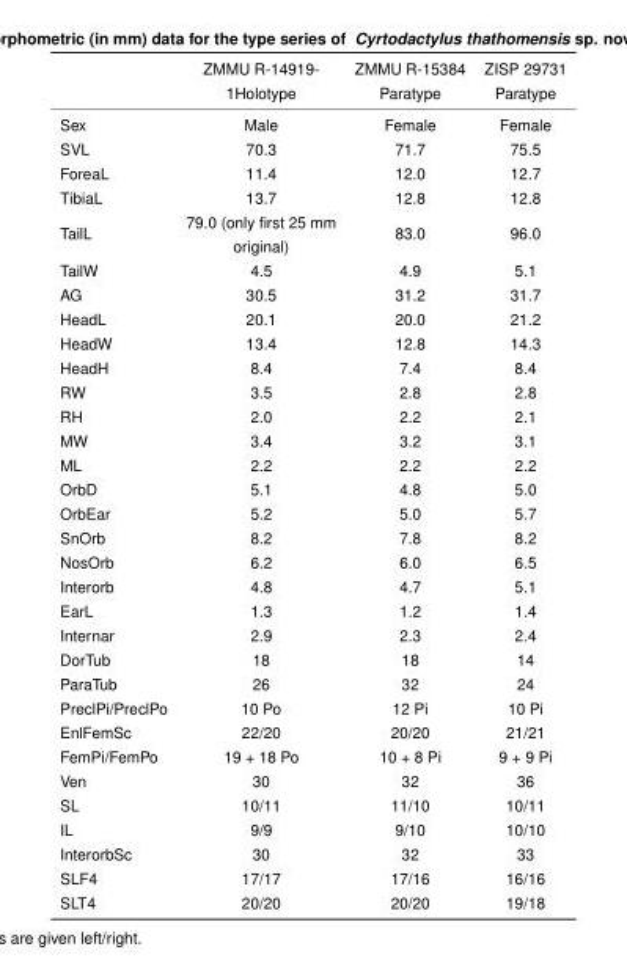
<table><thead><tr><td></td><td>ZMMU R-14919- 1Holotype</td><td>ZMMU R-15384 Paratype</td><td>ZISP 29731 Paratype</td></tr></thead><tbody><tr><td>Sex</td><td>Male</td><td>Female</td><td>Female</td></tr><tr><td>SVL</td><td>70.3</td><td>71.7</td><td>75.5</td></tr><tr><td>ForeaL</td><td>11.4</td><td>12.0</td><td>12.7</td></tr><tr><td>TibiaL</td><td>13.7</td><td>12.8</td><td>12.8</td></tr><tr><td>TailL</td><td>79.0 (only first 25 mm original)</td><td>83.0</td><td>96.0</td></tr><tr><td>TailW</td><td>4.5</td><td>4.9</td><td>5.1</td></tr><tr><td>AG</td><td>30.5</td><td>31.2</td><td>31.7</td></tr><tr><td>HeadL</td><td>20.1</td><td>20.0</td><td>21.2</td></tr><tr><td>HeadW</td><td>13.4</td><td>12.8</td><td>14.3</td></tr><tr><td>HeadH</td><td>8.4</td><td>7.4</td><td>8.4</td></tr><tr><td>RW</td><td>3.5</td><td>2.8</td><td>2.8</td></tr><tr><td>RH</td><td>2.0</td><td>2.2</td><td>2.1</td></tr><tr><td>MW</td><td>3.4</td><td>3.2</td><td>3.1</td></tr><tr><td>ML</td><td>2.2</td><td>2.2</td><td>2.2</td></tr><tr><td>OrbD</td><td>5.1</td><td>4.8</td><td>5.0</td></tr><tr><td>OrbEar</td><td>5.2</td><td>5.0</td><td>5.7</td></tr><tr><td>SnOrb</td><td>8.2</td><td>7.8</td><td>8.2</td></tr><tr><td>NosOrb</td><td>6.2</td><td>6.0</td><td>6.5</td></tr><tr><td>Interorb</td><td>4.8</td><td>4.7</td><td>5.1</td></tr><tr><td>EarL</td><td>1.3</td><td>1.2</td><td>1.4</td></tr><tr><td>Internar</td><td>2.9</td><td>2.3</td><td>2.4</td></tr><tr><td>DorTub</td><td>18</td><td>18</td><td>14</td></tr><tr><td>ParaTub</td><td>26</td><td>32</td><td>24</td></tr><tr><td>PreclPi/PreclPo</td><td>10 Po</td><td>12 Pi</td><td>10 Pi</td></tr><tr><td>EnlFemSc</td><td>22/20</td><td>20/20</td><td>21/21</td></tr><tr><td>FemPi/FemPo</td><td>19 + 18 Po</td><td>10 + 8 Pi</td><td>9 + 9 Pi</td></tr><tr><td>Ven</td><td>30</td><td>32</td><td>36</td></tr><tr><td>SL</td><td>10/11</td><td>11/10</td><td>10/11</td></tr><tr><td>IL</td><td>9/9</td><td>9/10</td><td>10/10</td></tr><tr><td>InterorbSc</td><td>30</td><td>32</td><td>33</td></tr><tr><td>SLF4</td><td>17/17</td><td>17/16</td><td>16/16</td></tr><tr><td>SLT4</td><td>20/20</td><td>20/20</td><td>19/18</td></tr></tbody></table>